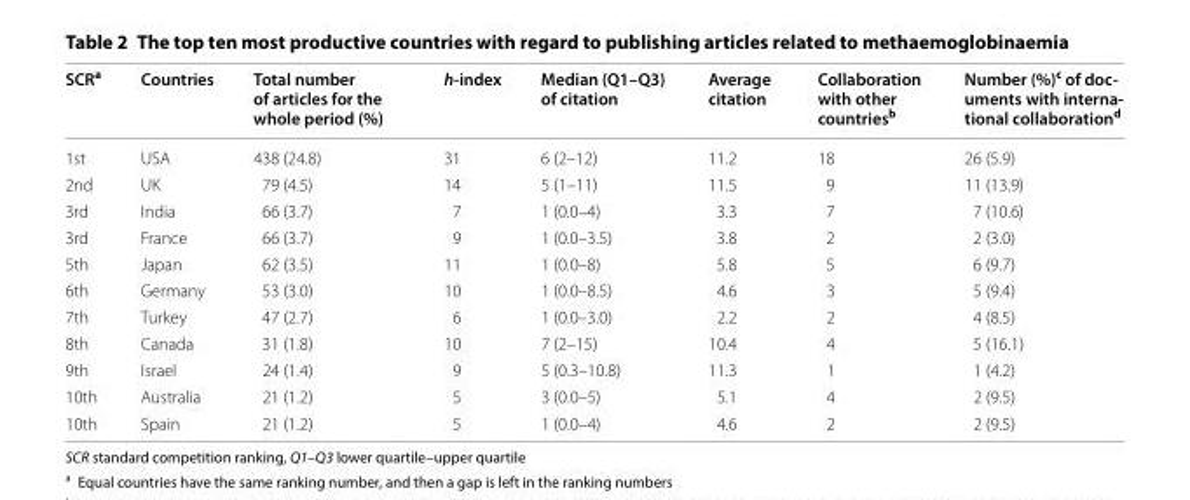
<table><thead><tr><td>SCR<sup>a</sup></td><td>Countries</td><td>Total number of articles for the whole period (%)</td><td>h-index</td><td>Median (Q1–Q3) of citation</td><td>Average citation</td><td>Collaboration with other countries<sup>b</sup></td><td>Number (%)c of doc- uments with interna- tional collaborationd</td></tr></thead><tbody><tr><td>1st</td><td>USA</td><td>438 (24.8)</td><td>31</td><td>6 (2–12)</td><td>11.2</td><td>18</td><td>26 (5.9)</td></tr><tr><td>2nd</td><td>UK</td><td>79 (4.5)</td><td>14</td><td>5 (1–11)</td><td>11.5</td><td>9</td><td>11 (13.9)</td></tr><tr><td>3rd</td><td>India</td><td>66 (3.7)</td><td>7</td><td>1 (0.0–4)</td><td>3.3</td><td>7</td><td>7 (10.6)</td></tr><tr><td>3rd</td><td>France</td><td>66 (3.7)</td><td>9</td><td>1 (0.0–3.5)</td><td>3.8</td><td>2</td><td>2 (3.0)</td></tr><tr><td>5th</td><td>Japan</td><td>62 (3.5)</td><td>11</td><td>1 (0.0–8)</td><td>5.8</td><td>5</td><td>6 (9.7)</td></tr><tr><td>6th</td><td>Germany</td><td>53 (3.0)</td><td>10</td><td>1 (0.0–8.5)</td><td>4.6</td><td>3</td><td>5 (9.4)</td></tr><tr><td>7th</td><td>Turkey</td><td>47 (2.7)</td><td>6</td><td>1 (0.0–3.0)</td><td>2.2</td><td>2</td><td>4 (8.5)</td></tr><tr><td>8th</td><td>Canada</td><td>31 (1.8)</td><td>10</td><td>7 (2–15)</td><td>10.4</td><td>4</td><td>5 (16.1)</td></tr><tr><td>9th</td><td>Israel</td><td>24 (1.4)</td><td>9</td><td>5 (0.3–10.8)</td><td>11.3</td><td>1</td><td>1 (4.2)</td></tr><tr><td>10th</td><td>Australia</td><td>21 (1.2)</td><td>5</td><td>3 (0.0–5)</td><td>5.1</td><td>4</td><td>2 (9.5)</td></tr><tr><td>10th</td><td>Spain</td><td>21 (1.2)</td><td>5</td><td>1 (0.0–4)</td><td>4.6</td><td>2</td><td>2 (9.5)</td></tr></tbody></table>